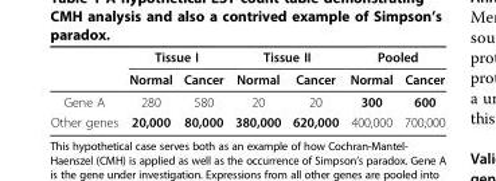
<table><thead><tr><td rowspan="2"></td><td colspan="2">Tissue I</td><td colspan="2">Tissue II</td><td colspan="2">Pooled</td></tr><tr><td>Normal</td><td>Cancer</td><td>Normal</td><td>Cancer</td><td>Normal</td><td>Cancer</td></tr></thead><tbody><tr><td>Gene A</td><td>280</td><td>580</td><td>20</td><td>20</td><td>300</td><td>600</td></tr><tr><td>Other genes</td><td>20,000</td><td>80,000</td><td>380,000</td><td>620,000</td><td>400,000</td><td>700,000</td></tr></tbody></table>